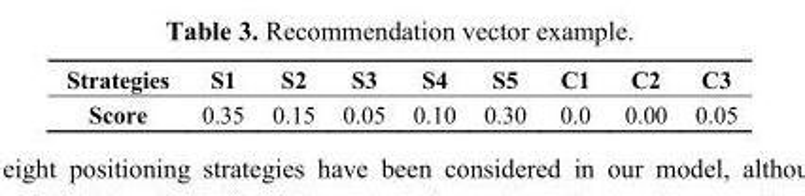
<table><thead><tr><td>Strategies</td><td>S1</td><td>S2</td><td>S3</td><td>S4</td><td>S5</td><td>C1</td><td>C2</td><td>C3</td></tr></thead><tbody><tr><td>Score</td><td>0.35</td><td>0.15</td><td>0.05</td><td>0.10</td><td>0.30</td><td>0.0</td><td>0.00</td><td>0.05</td></tr></tbody></table>